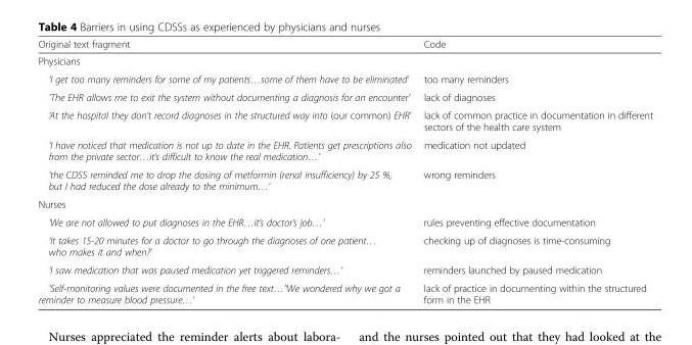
<table><thead><tr><td>Original text fragment</td><td>Code</td></tr></thead><tbody><tr><td colspan="2">Physicians</td></tr><tr><td>‘I get too many reminders for some of my patients…some of them have to be eliminated’</td><td>too many reminders</td></tr><tr><td>‘The EHR allows me to exit the system without documenting a diagnosis for an encounter’</td><td>lack of diagnoses</td></tr><tr><td>‘At the hospital they don’t record diagnoses in the structured way into (our common) EHR’</td><td>lack of common practice in documentation in different sectors of the health care system</td></tr><tr><td>‘I have noticed that medication is not up to date in the EHR. Patients get prescriptions also from the private sector…it’s difficult to know the real medication…’</td><td>medication not updated</td></tr><tr><td>‘the CDSS reminded me to drop the dosing of metformin (renal insufficiency) by 25 %, but I had reduced the dose already to the minimum…’</td><td>wrong reminders</td></tr><tr><td colspan="2">Nurses</td></tr><tr><td>‘We are not allowed to put diagnoses in the EHR…it’s doctor’s job…’</td><td>rules preventing effective documentation</td></tr><tr><td>‘It takes 15-20 minutes for a doctor to go through the diagnoses of one patient… who makes it and when?’</td><td>checking up of diagnoses is time-consuming</td></tr><tr><td>‘I saw medication that was paused medication yet triggered reminders…’</td><td>reminders launched by paused medication</td></tr><tr><td>‘Self-monitoring values were documented in the free text…’‘We wondered why we got a reminder to measure blood pressure…’</td><td>lack of practice in documenting within the structured form in the EHR</td></tr></tbody></table>